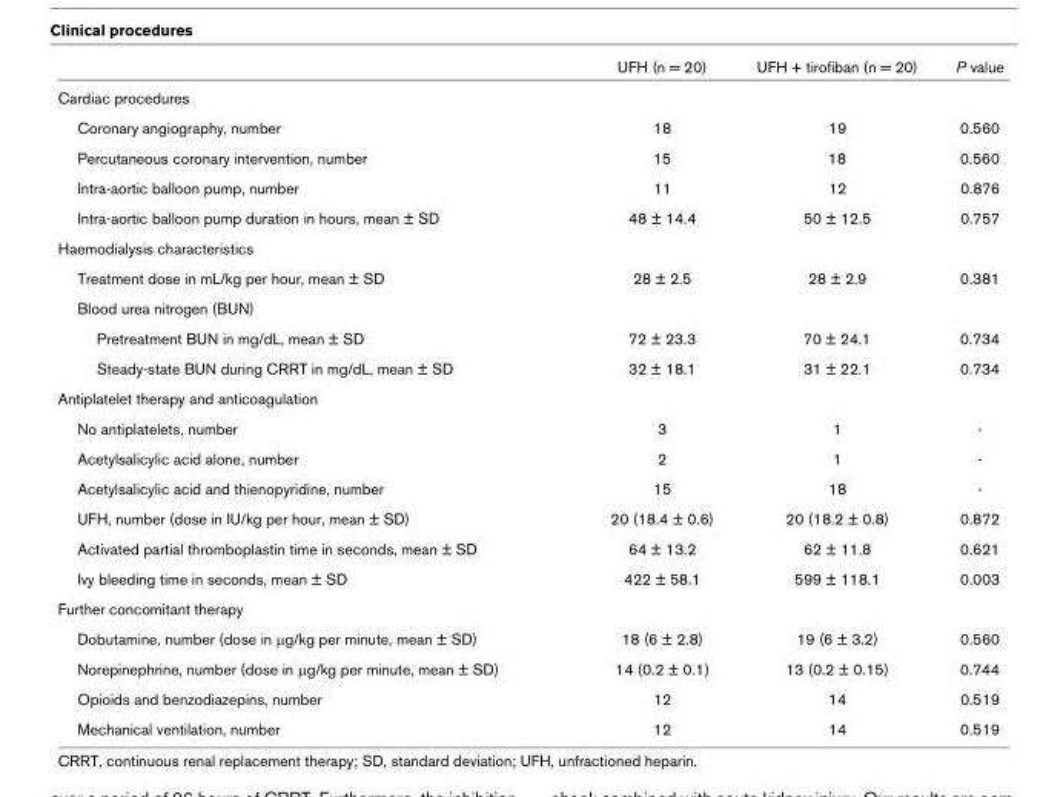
<table><thead><tr><td></td><td>UFH (n = 20)</td><td>UFH + tirofiban (n = 20)</td><td>P value</td></tr></thead><tbody><tr><td colspan="4">Cardiac procedures</td></tr><tr><td>Coronary angiography, number</td><td>18</td><td>19</td><td>0.560</td></tr><tr><td>Percutaneous coronary intervention, number</td><td>15</td><td>18</td><td>0.560</td></tr><tr><td>Intra-aortic balloon pump, number</td><td>11</td><td>12</td><td>0.876</td></tr><tr><td>Intra-aortic balloon pump duration in hours, mean ± SD</td><td>48 ± 14.4</td><td>50 ± 12.5</td><td>0.757</td></tr><tr><td colspan="4">Haemodialysis characteristics</td></tr><tr><td>Treatment dose in mL/kg per hour, mean ± SD</td><td>28 ± 2.5</td><td>28 ± 2.9</td><td>0.381</td></tr><tr><td colspan="4">Blood urea nitrogen (BUN)</td></tr><tr><td>Pretreatment BUN in mg/dL, mean ± SD</td><td>72 ± 23.3</td><td>70 ± 24.1</td><td>0.734</td></tr><tr><td>Steady-state BUN during CRRT in mg/dL, mean ± SD</td><td>32 ± 18.1</td><td>31 ± 22.1</td><td>0.734</td></tr><tr><td colspan="4">Antiplatelet therapy and anticoagulation</td></tr><tr><td>No antiplatelets, number</td><td>3</td><td>1</td><td>-</td></tr><tr><td>Acetylsalicylic acid alone, number</td><td>2</td><td>1</td><td>-</td></tr><tr><td>Acetylsalicylic acid and thienopyridine, number</td><td>15</td><td>18</td><td>-</td></tr><tr><td>UFH, number (dose in IU/kg per hour, mean ± SD)</td><td>20 (18.4 ± 0.6)</td><td>20 (18.2 ± 0.8)</td><td>0.872</td></tr><tr><td>Activated partial thromboplastin time in seconds, mean ± SD</td><td>64 ± 13.2</td><td>62 ± 11.8</td><td>0.621</td></tr><tr><td>Ivy bleeding time in seconds, mean ± SD</td><td>422 ± 58.1</td><td>599 ± 118.1</td><td>0.003</td></tr><tr><td colspan="4">Further concomitant therapy</td></tr><tr><td>Dobutamine, number (dose in μg/kg per minute, mean ± SD)</td><td>18 (6 ± 2.8)</td><td>19 (6 ± 3.2)</td><td>0.560</td></tr><tr><td>Norepinephrine, number (dose in μg/kg per minute, mean ± SD)</td><td>14 (0.2 ± 0.1)</td><td>13 (0.2 ± 0.15)</td><td>0.744</td></tr><tr><td>Opioids and benzodiazepins, number</td><td>12</td><td>14</td><td>0.519</td></tr><tr><td>Mechanical ventilation, number</td><td>12</td><td>14</td><td>0.519</td></tr></tbody></table>